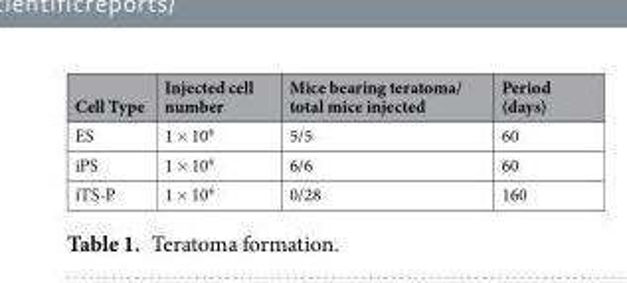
<table><thead><tr><td>Cell Type</td><td>Injected cell number</td><td>Mice bearing teratoma/ total mice injected</td><td>Period (days)</td></tr></thead><tbody><tr><td>ES</td><td>1 × 10<sup>6</sup></td><td>5/5</td><td>60</td></tr><tr><td>iPS</td><td>1 × 10<sup>6</sup></td><td>6/6</td><td>60</td></tr><tr><td>iTS-P</td><td>1 × 10<sup>6</sup></td><td>0/28</td><td>160</td></tr></tbody></table>